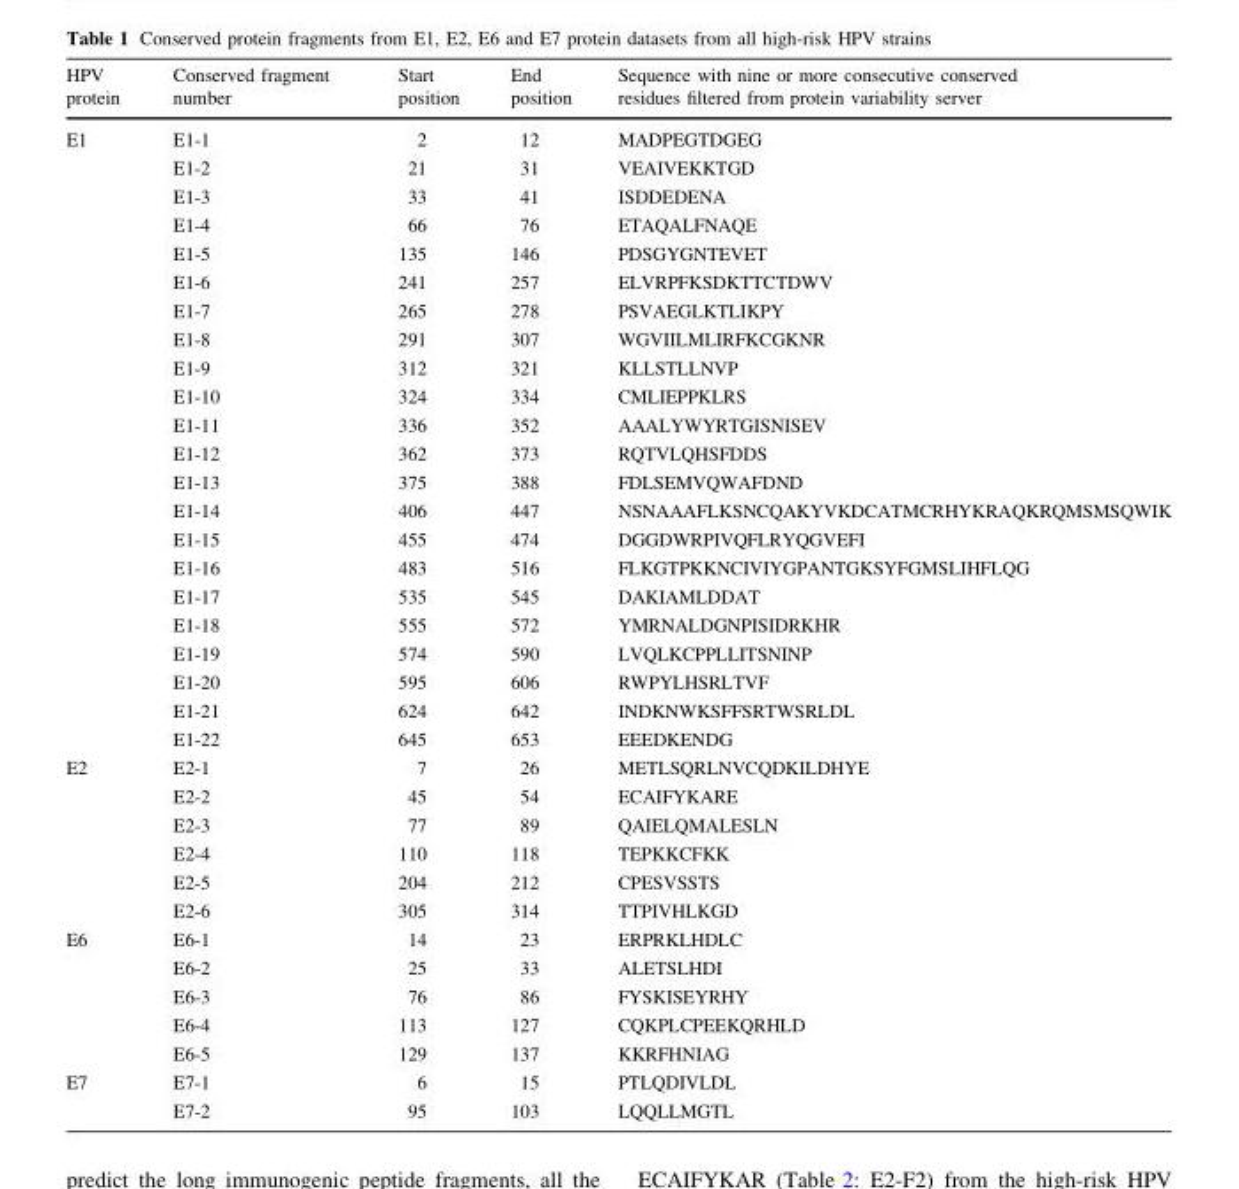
<table><thead><tr><td>HPV protein</td><td>Conserved fragment number</td><td>Start position</td><td>End position</td><td>Sequence with nine or more consecutive conserved residues filtered from protein variability server</td></tr></thead><tbody><tr><td rowspan="22">E1</td><td>E1-1</td><td>2</td><td>12</td><td>MADPEGTDGEG</td></tr><tr><td>E1-2</td><td>21</td><td>31</td><td>VEAIVEKKTGD</td></tr><tr><td>E1-3</td><td>33</td><td>41</td><td>ISDDEDENA</td></tr><tr><td>E1-4</td><td>66</td><td>76</td><td>ETAQALFNAQE</td></tr><tr><td>E1-5</td><td>135</td><td>146</td><td>PDSGYGNTEVET</td></tr><tr><td>E1-6</td><td>241</td><td>257</td><td>ELVRPFKSDKTTCTDWV</td></tr><tr><td>E1-7</td><td>265</td><td>278</td><td>PSVAEGLKTLIKPY</td></tr><tr><td>E1-8</td><td>291</td><td>307</td><td>WGVIILMLIRFKCGKNR</td></tr><tr><td>E1-9</td><td>312</td><td>321</td><td>KLLSTLLNVP</td></tr><tr><td>E1-10</td><td>324</td><td>334</td><td>CMLIEPPKLRS</td></tr><tr><td>E1-11</td><td>336</td><td>352</td><td>AAALYWYRTGISNISEV</td></tr><tr><td>E1-12</td><td>362</td><td>373</td><td>RQTVLQHSFDDS</td></tr><tr><td>E1-13</td><td>375</td><td>388</td><td>FDLSEMVQWAFDND</td></tr><tr><td>E1-14</td><td>406</td><td>447</td><td>NSNAAAFLKSNCQAKYVKDCATMCRHYKRAQKRQMSMSQWIK</td></tr><tr><td>E1-15</td><td>455</td><td>474</td><td>DGGDWRPIVQFLRYQGVEFI</td></tr><tr><td>E1-16</td><td>483</td><td>516</td><td>FLKGTPKKNCIVIYGPANTGKSYFGMSLIHFLQG</td></tr><tr><td>E1-17</td><td>535</td><td>545</td><td>DAKIAMLDDAT</td></tr><tr><td>E1-18</td><td>555</td><td>572</td><td>YMRNALDGNPISIDRKHR</td></tr><tr><td>E1-19</td><td>574</td><td>590</td><td>LVQLKCPPLLITSNINP</td></tr><tr><td>E1-20</td><td>595</td><td>606</td><td>RWPYLHSRLTVF</td></tr><tr><td>E1-21</td><td>624</td><td>642</td><td>INDKNWKSFFSRTWSRLDL</td></tr><tr><td>E1-22</td><td>645</td><td>653</td><td>EEEDKENDG</td></tr><tr><td rowspan="6">E2</td><td>E2-1</td><td>7</td><td>26</td><td>METLSQRLNVCQDKILDHYE</td></tr><tr><td>E2-2</td><td>45</td><td>54</td><td>ECAIFYKARE</td></tr><tr><td>E2-3</td><td>77</td><td>89</td><td>QAIELQMALESLN</td></tr><tr><td>E2-4</td><td>110</td><td>118</td><td>TEPKKCFKK</td></tr><tr><td>E2-5</td><td>204</td><td>212</td><td>CPESVSSTS</td></tr><tr><td>E2-6</td><td>305</td><td>314</td><td>TTPIVHLKGD</td></tr><tr><td rowspan="5">E6</td><td>E6-1</td><td>14</td><td>23</td><td>ERPRKLHDLC</td></tr><tr><td>E6-2</td><td>25</td><td>33</td><td>ALETSLHDI</td></tr><tr><td>E6-3</td><td>76</td><td>86</td><td>FYSKISEYRHY</td></tr><tr><td>E6-4</td><td>113</td><td>127</td><td>CQKPLCPEEKQRHLD</td></tr><tr><td>E6-5</td><td>129</td><td>137</td><td>KKRFHNIAG</td></tr><tr><td rowspan="2">E7</td><td>E7-1</td><td>6</td><td>15</td><td>PTLQDIVLDL</td></tr><tr><td>E7-2</td><td>95</td><td>103</td><td>LQQLLMGTL</td></tr></tbody></table>